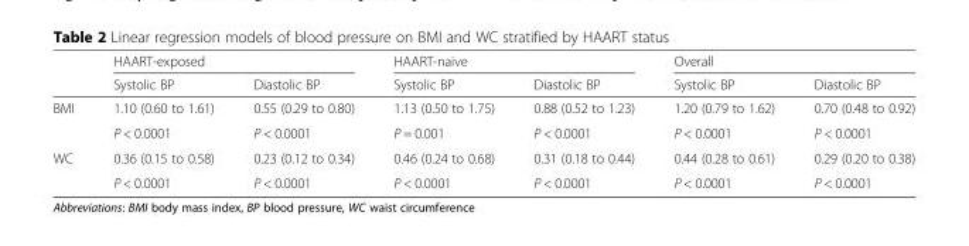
<table><thead><tr><td rowspan="2"></td><td colspan="2">HAART-exposed</td><td colspan="2">HAART-naive</td><td colspan="2">Overall</td></tr><tr><td>Systolic BP</td><td>Diastolic BP</td><td>Systolic BP</td><td>Diastolic BP</td><td>Systolic BP</td><td>Diastolic BP</td></tr></thead><tbody><tr><td rowspan="2">BMI</td><td>1.10 (0.60 to 1.61)</td><td>0.55 (0.29 to 0.80)</td><td>1.13 (0.50 to 1.75)</td><td>0.88 (0.52 to 1.23)</td><td>1.20 (0.79 to 1.62)</td><td>0.70 (0.48 to 0.92)</td></tr><tr><td>P &lt; 0.0001</td><td>P &lt; 0.0001</td><td>P = 0.001</td><td>P &lt; 0.0001</td><td>P &lt; 0.0001</td><td>P &lt; 0.0001</td></tr><tr><td rowspan="2">WC</td><td>0.36 (0.15 to 0.58)</td><td>0.23 (0.12 to 0.34)</td><td>0.46 (0.24 to 0.68)</td><td>0.31 (0.18 to 0.44)</td><td>0.44 (0.28 to 0.61)</td><td>0.29 (0.20 to 0.38)</td></tr><tr><td>P &lt; 0.0001</td><td>P &lt; 0.0001</td><td>P &lt; 0.0001</td><td>P &lt; 0.0001</td><td>P &lt; 0.0001</td><td>P &lt; 0.0001</td></tr></tbody></table>